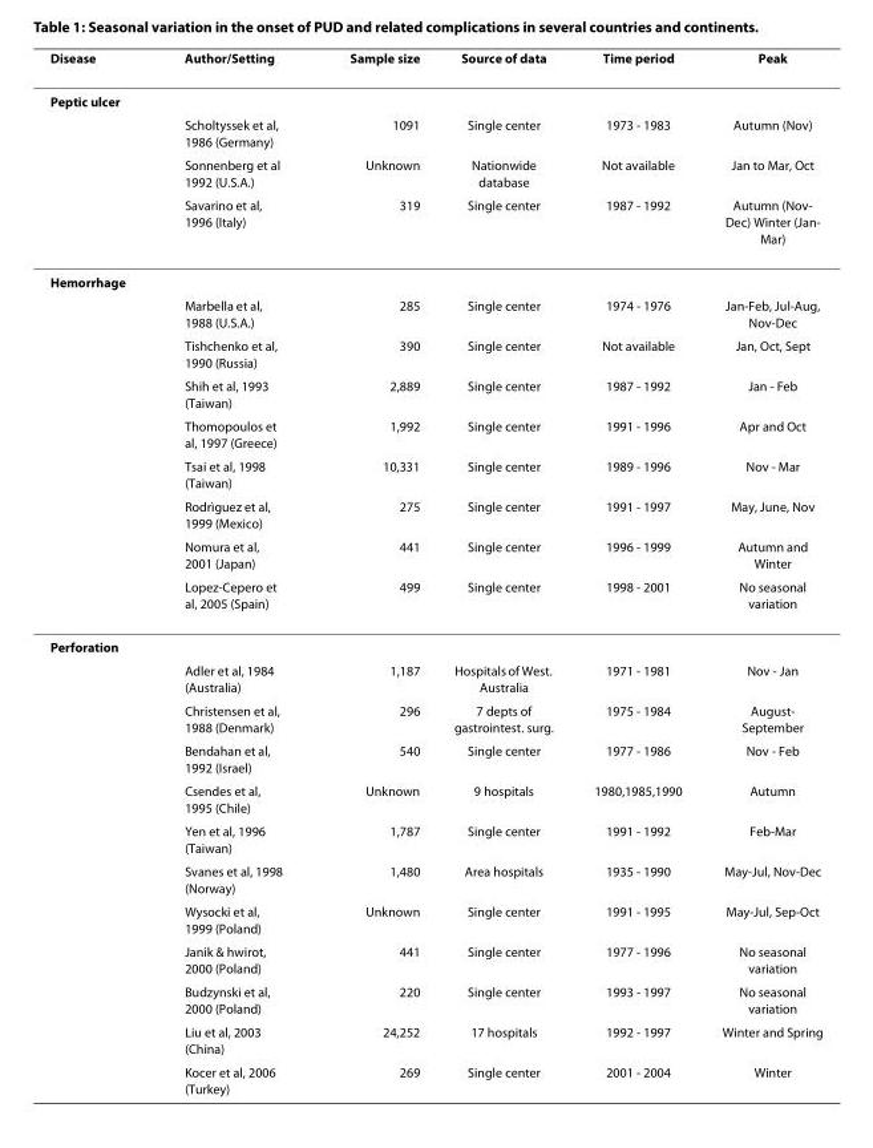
<table><thead><tr><td>Disease</td><td>Author/Setting</td><td>Sample size</td><td>Source of data</td><td>Time period</td><td>Peak</td></tr></thead><tbody><tr><td colspan="6">Peptic ulcer</td></tr><tr><td></td><td>Scholtyssek et al, 1986 (Germany)</td><td>1091</td><td>Single center</td><td>1973 - 1983</td><td>Autumn (Nov)</td></tr><tr><td></td><td>Sonnenberg et al 1992 (U.S.A.)</td><td>Unknown</td><td>Nationwide database</td><td>Not available</td><td>Jan to Mar, Oct</td></tr><tr><td></td><td>Savarino et al, 1996 (Italy)</td><td>319</td><td>Single center</td><td>1987 - 1992</td><td>Autumn (Nov- Dec) Winter (Jan- Mar)</td></tr><tr><td colspan="6">Hemorrhage</td></tr><tr><td></td><td>Marbella et al, 1988 (U.S.A.)</td><td>285</td><td>Single center</td><td>1974 - 1976</td><td>Jan-Feb, Jul-Aug, Nov-Dec</td></tr><tr><td></td><td>Tishchenko et al, 1990 (Russia)</td><td>390</td><td>Single center</td><td>Not available</td><td>Jan, Oct, Sept</td></tr><tr><td></td><td>Shih et al, 1993 (Taiwan)</td><td>2,889</td><td>Single center</td><td>1987 - 1992</td><td>Jan - Feb</td></tr><tr><td></td><td>Thomopoulos et al, 1997 (Greece)</td><td>1,992</td><td>Single center</td><td>1991 - 1996</td><td>Apr and Oct</td></tr><tr><td></td><td>Tsai et al, 1998 (Taiwan)</td><td>10,331</td><td>Single center</td><td>1989 - 1996</td><td>Nov - Mar</td></tr><tr><td></td><td>Rodrìguez et al, 1999 (Mexico)</td><td>275</td><td>Single center</td><td>1991 - 1997</td><td>May, June, Nov</td></tr><tr><td></td><td>Nomura et al, 2001 (Japan)</td><td>441</td><td>Single center</td><td>1996 - 1999</td><td>Autumn and Winter</td></tr><tr><td></td><td>Lopez-Cepero et al, 2005 (Spain)</td><td>499</td><td>Single center</td><td>1998 - 2001</td><td>No seasonal variation</td></tr><tr><td colspan="6">Perforation</td></tr><tr><td></td><td>Adler et al, 1984 (Australia)</td><td>1,187</td><td>Hospitals of West. Australia</td><td>1971 - 1981</td><td>Nov - Jan</td></tr><tr><td></td><td>Christensen et al, 1988 (Denmark)</td><td>296</td><td>7 depts of gastrointest. surg.</td><td>1975 - 1984</td><td>August- September</td></tr><tr><td></td><td>Bendahan et al, 1992 (Israel)</td><td>540</td><td>Single center</td><td>1977 - 1986</td><td>Nov - Feb</td></tr><tr><td></td><td>Csendes et al, 1995 (Chile)</td><td>Unknown</td><td>9 hospitals</td><td>1980,1985,1990</td><td>Autumn</td></tr><tr><td></td><td>Yen et al, 1996 (Taiwan)</td><td>1,787</td><td>Single center</td><td>1991 - 1992</td><td>Feb-Mar</td></tr><tr><td></td><td>Svanes et al, 1998 (Norway)</td><td>1,480</td><td>Area hospitals</td><td>1935 - 1990</td><td>May-Jul, Nov-Dec</td></tr><tr><td></td><td>Wysocki et al, 1999 (Poland)</td><td>Unknown</td><td>Single center</td><td>1991 - 1995</td><td>May-Jul, Sep-Oct</td></tr><tr><td></td><td>Janik &amp; hwirot, 2000 (Poland)</td><td>441</td><td>Single center</td><td>1977 - 1996</td><td>No seasonal variation</td></tr><tr><td></td><td>Budzynski et al, 2000 (Poland)</td><td>220</td><td>Single center</td><td>1993 - 1997</td><td>No seasonal variation</td></tr><tr><td></td><td>Liu et al, 2003 (China)</td><td>24,252</td><td>17 hospitals</td><td>1992 - 1997</td><td>Winter and Spring</td></tr><tr><td></td><td>Kocer et al, 2006 (Turkey)</td><td>269</td><td>Single center</td><td>2001 - 2004</td><td>Winter</td></tr></tbody></table>